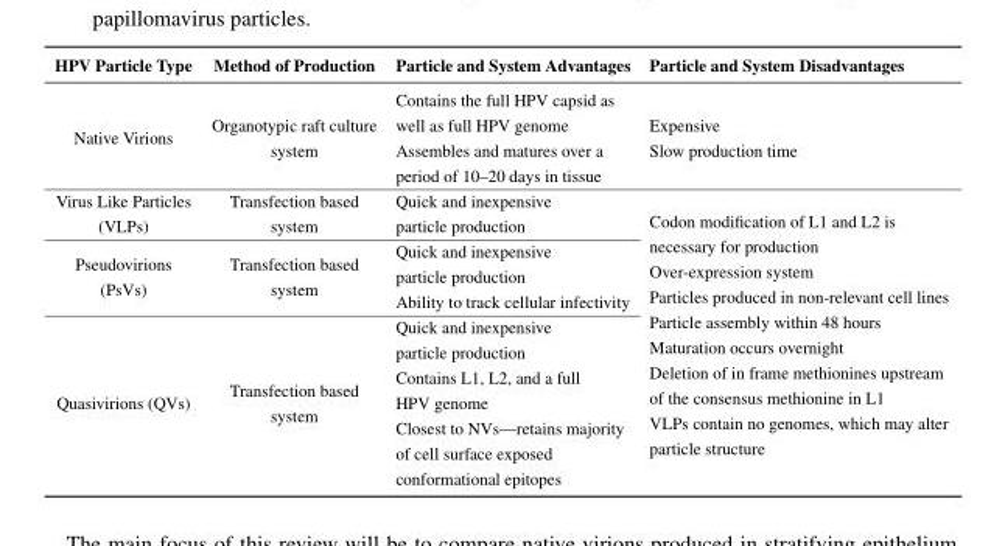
<table><thead><tr><td>HPV Particle Type</td><td>Method of Production</td><td>Particle and System Advantages</td><td>Particle and System Disadvantages</td></tr></thead><tbody><tr><td>Native Virions</td><td>Organotypic raft culture system</td><td>Contains the full HPV capsid as well as full HPV genome Assembles and matures over a period of 10–20 days in tissue</td><td>Expensive Slow production time</td></tr><tr><td>Virus Like Particles (VLPs)</td><td>Transfection based system</td><td>Quick and inexpensive particle production</td><td rowspan="3">Codon modification of L1 and L2 is necessary for production Over-expression system Particles produced in non-relevant cell lines Particle assembly within 48 hours Maturation occurs overnight Deletion of in frame methionines upstream of the consensus methionine in L1 VLPs contain no genomes, which may alter particle structure</td></tr><tr><td>Pseudovirions (PsVs)</td><td>Transfection based system</td><td>Quick and inexpensive particle production Ability to track cellular infectivity</td></tr><tr><td>Quasivirions (QVs)</td><td>Transfection based system</td><td>Quick and inexpensive particle production Contains L1, L2, and a full HPV genome Closest to NVs—retains majority of cell surface exposed conformational epitopes</td></tr></tbody></table>